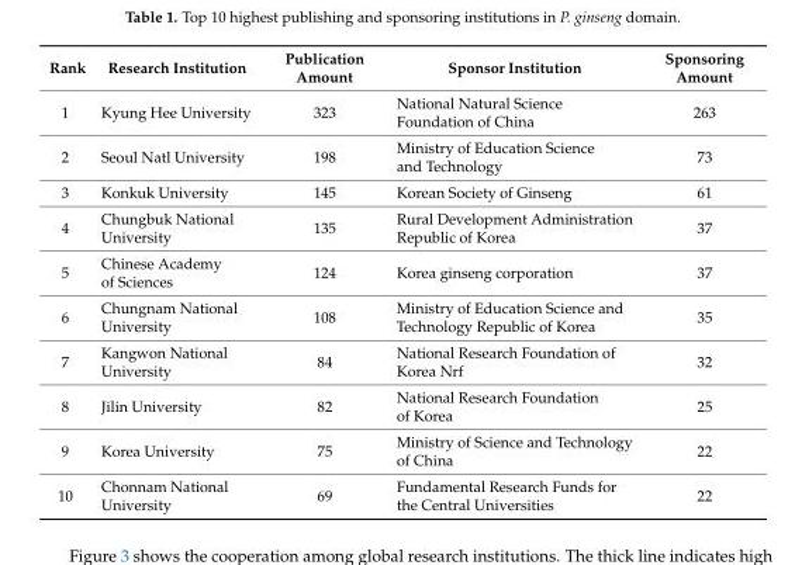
<table><thead><tr><td>Rank</td><td>Research Institution</td><td>Publication Amount</td><td>Sponsor Institution</td><td>Sponsoring Amount</td></tr></thead><tbody><tr><td>1</td><td>Kyung Hee University</td><td>323</td><td>National Natural Science Foundation of China</td><td>263</td></tr><tr><td>2</td><td>Seoul Natl University</td><td>198</td><td>Ministry of Education Science and Technology</td><td>73</td></tr><tr><td>3</td><td>Konkuk University</td><td>145</td><td>Korean Society of Ginseng</td><td>61</td></tr><tr><td>4</td><td>Chungbuk National University</td><td>135</td><td>Rural Development Administration Republic of Korea</td><td>37</td></tr><tr><td>5</td><td>Chinese Academy of Sciences</td><td>124</td><td>Korea ginseng corporation</td><td>37</td></tr><tr><td>6</td><td>Chungnam National University</td><td>108</td><td>Ministry of Education Science and Technology Republic of Korea</td><td>35</td></tr><tr><td>7</td><td>Kangwon National University</td><td>84</td><td>National Research Foundation of Korea Nrf</td><td>32</td></tr><tr><td>8</td><td>Jilin University</td><td>82</td><td>National Research Foundation of Korea</td><td>25</td></tr><tr><td>9</td><td>Korea University</td><td>75</td><td>Ministry of Science and Technology of China</td><td>22</td></tr><tr><td>10</td><td>Chonnam National University</td><td>69</td><td>Fundamental Research Funds for the Central Universities</td><td>22</td></tr></tbody></table>